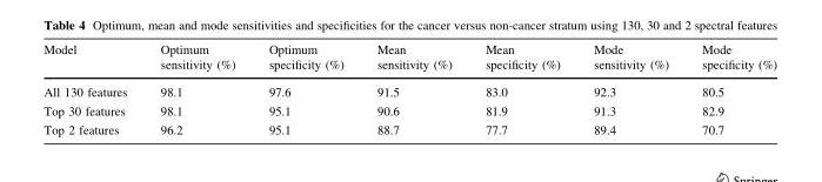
<table><thead><tr><td>Model</td><td>Optimum sensitivity (%)</td><td>Optimum specificity (%)</td><td>Mean sensitivity (%)</td><td>Mean specificity (%)</td><td>Mode sensitivity (%)</td><td>Mode specificity (%)</td></tr></thead><tbody><tr><td>All 130 features</td><td>98.1</td><td>97.6</td><td>91.5</td><td>83.0</td><td>92.3</td><td>80.5</td></tr><tr><td>Top 30 features</td><td>98.1</td><td>95.1</td><td>90.6</td><td>81.9</td><td>91.3</td><td>82.9</td></tr><tr><td>Top 2 features</td><td>96.2</td><td>95.1</td><td>88.7</td><td>77.7</td><td>89.4</td><td>70.7</td></tr></tbody></table>